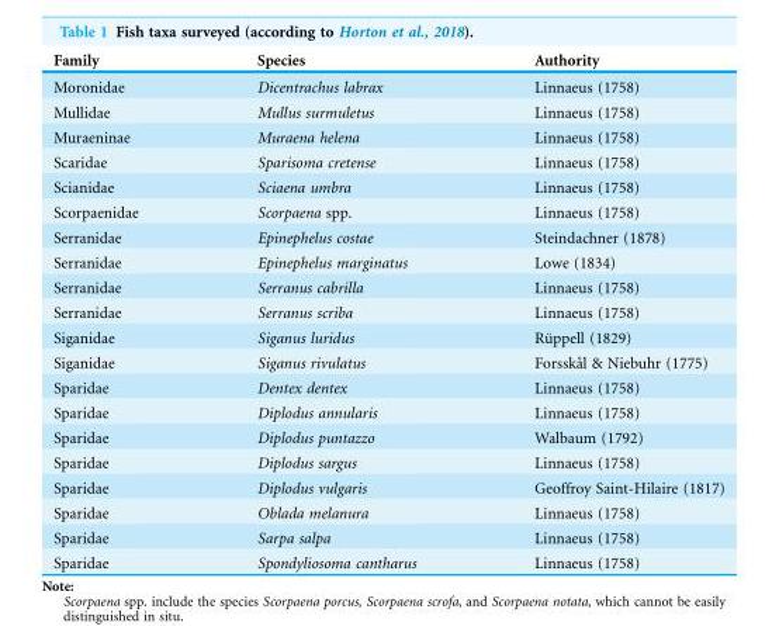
<table><thead><tr><td>Family</td><td>Species</td><td>Authority</td></tr></thead><tbody><tr><td>Moronidae</td><td>Dicentrachus labrax</td><td>Linnaeus (1758)</td></tr><tr><td>Mullidae</td><td>Mullus surmuletus</td><td>Linnaeus (1758)</td></tr><tr><td>Muraeninae</td><td>Muraena helena</td><td>Linnaeus (1758)</td></tr><tr><td>Scaridae</td><td>Sparisoma cretense</td><td>Linnaeus (1758)</td></tr><tr><td>Scianidae</td><td>Sciaena umbra</td><td>Linnaeus (1758)</td></tr><tr><td>Scorpaenidae</td><td>Scorpaena spp.</td><td>Linnaeus (1758)</td></tr><tr><td>Serranidae</td><td>Epinephelus costae</td><td>Steindachner (1878)</td></tr><tr><td>Serranidae</td><td>Epinephelus marginatus</td><td>Lowe (1834)</td></tr><tr><td>Serranidae</td><td>Serranus cabrilla</td><td>Linnaeus (1758)</td></tr><tr><td>Serranidae</td><td>Serranus scriba</td><td>Linnaeus (1758)</td></tr><tr><td>Siganidae</td><td>Siganus luridus</td><td>Ru¨ppell (1829)</td></tr><tr><td>Siganidae</td><td>Siganus rivulatus</td><td>Forsska˚l &amp; Niebuhr (1775)</td></tr><tr><td>Sparidae</td><td>Dentex dentex</td><td>Linnaeus (1758)</td></tr><tr><td>Sparidae</td><td>Diplodus annularis</td><td>Linnaeus (1758)</td></tr><tr><td>Sparidae</td><td>Diplodus puntazzo</td><td>Walbaum (1792)</td></tr><tr><td>Sparidae</td><td>Diplodus sargus</td><td>Linnaeus (1758)</td></tr><tr><td>Sparidae</td><td>Diplodus vulgaris</td><td>Geoffroy Saint-Hilaire (1817)</td></tr><tr><td>Sparidae</td><td>Oblada melanura</td><td>Linnaeus (1758)</td></tr><tr><td>Sparidae</td><td>Sarpa salpa</td><td>Linnaeus (1758)</td></tr><tr><td>Sparidae</td><td>Spondyliosoma cantharus</td><td>Linnaeus (1758)</td></tr></tbody></table>